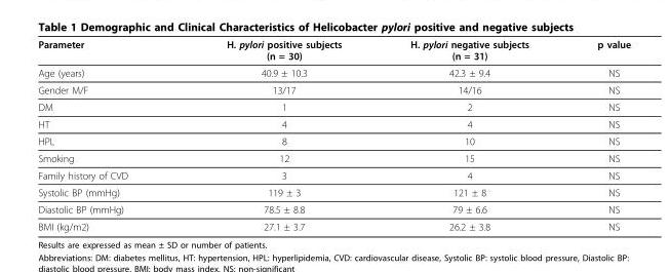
<table><thead><tr><td>Parameter</td><td>H. pylori positive subjects (n = 30)</td><td>H. pylori negative subjects (n = 31)</td><td>p value</td></tr></thead><tbody><tr><td>Age (years)</td><td>40.9 ± 10.3</td><td>42.3 ± 9.4</td><td>NS</td></tr><tr><td>Gender M/F</td><td>13/17</td><td>14/16</td><td>NS</td></tr><tr><td>DM</td><td>1</td><td>2</td><td>NS</td></tr><tr><td>HT</td><td>4</td><td>4</td><td>NS</td></tr><tr><td>HPL</td><td>8</td><td>10</td><td>NS</td></tr><tr><td>Smoking</td><td>12</td><td>15</td><td>NS</td></tr><tr><td>Family history of CVD</td><td>3</td><td>4</td><td>NS</td></tr><tr><td>Systolic BP (mmHg)</td><td>119 ± 3</td><td>121 ± 8</td><td>NS</td></tr><tr><td>Diastolic BP (mmHg)</td><td>78.5 ± 8.8</td><td>79 ± 6.6</td><td>NS</td></tr><tr><td>BMI (kg/m2)</td><td>27.1 ± 3.7</td><td>26.2 ± 3.8</td><td>NS</td></tr></tbody></table>